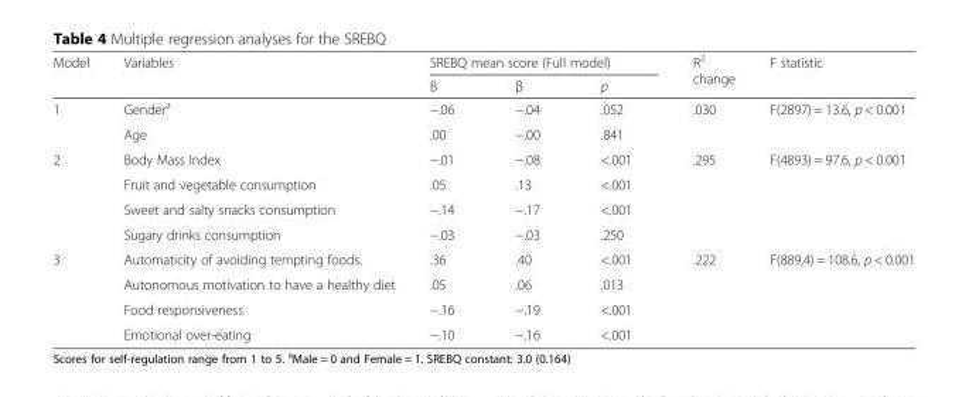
<table><thead><tr><td rowspan="2">Model</td><td rowspan="2">Variables</td><td colspan="3">SREBQ mean score (Full model)</td><td rowspan="2">R<sup>2</sup> change</td><td rowspan="2">F statistic</td></tr><tr><td>B</td><td>β</td><td>p</td></tr></thead><tbody><tr><td rowspan="2">1</td><td>Gender<sup>a</sup></td><td>−.06</td><td>−.04</td><td>.052</td><td rowspan="2">.030</td><td rowspan="2">F(2897) = 13.6, p &lt; 0.001</td></tr><tr><td>Age</td><td>.00</td><td>−.00</td><td>.841</td></tr><tr><td rowspan="4">2</td><td>Body Mass Index</td><td>−.01</td><td>−.08</td><td>&lt;.001</td><td rowspan="4">.295</td><td rowspan="4">F(4893) = 97.6, p &lt; 0.001</td></tr><tr><td>Fruit and vegetable consumption</td><td>.05</td><td>.13</td><td>&lt;.001</td></tr><tr><td>Sweet and salty snacks consumption</td><td>−.14</td><td>−.17</td><td>&lt;.001</td></tr><tr><td>Sugary drinks consumption</td><td>−.03</td><td>−.03</td><td>.250</td></tr><tr><td rowspan="4">3</td><td>Automaticity of avoiding tempting foods.</td><td>.36</td><td>.40</td><td>&lt;.001</td><td rowspan="4">.222</td><td rowspan="4">F(889,4) = 108.6, p &lt; 0.001</td></tr><tr><td>Autonomous motivation to have a healthy diet</td><td>.05</td><td>.06</td><td>.013</td></tr><tr><td>Food responsiveness</td><td>−.16</td><td>−.19</td><td>&lt;.001</td></tr><tr><td>Emotional over-eating</td><td>−.10</td><td>−.16</td><td>&lt;.001</td></tr></tbody></table>